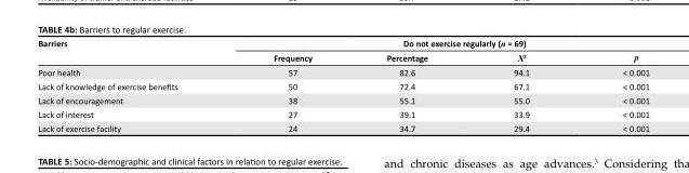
<table><thead><tr><td rowspan="2">Barriers</td><td colspan="4">Do not exercise regularly (n = 69)</td></tr><tr><td>Frequency</td><td>Percentage</td><td>X<sup>2</sup></td><td>p</td></tr></thead><tbody><tr><td>Poor health</td><td>57</td><td>82.6</td><td>94.1</td><td>&lt; 0.001</td></tr><tr><td>Lack of knowledge of exercise benefits</td><td>50</td><td>72.4</td><td>67.1</td><td>&lt; 0.001</td></tr><tr><td>Lack of encouragement</td><td>38</td><td>55.1</td><td>55.0</td><td>&lt; 0.001</td></tr><tr><td>Lack of interest</td><td>27</td><td>39.1</td><td>33.9</td><td>&lt; 0.001</td></tr><tr><td>Lack of exercise facility</td><td>24</td><td>34.7</td><td>29.4</td><td>&lt; 0.001</td></tr></tbody></table>